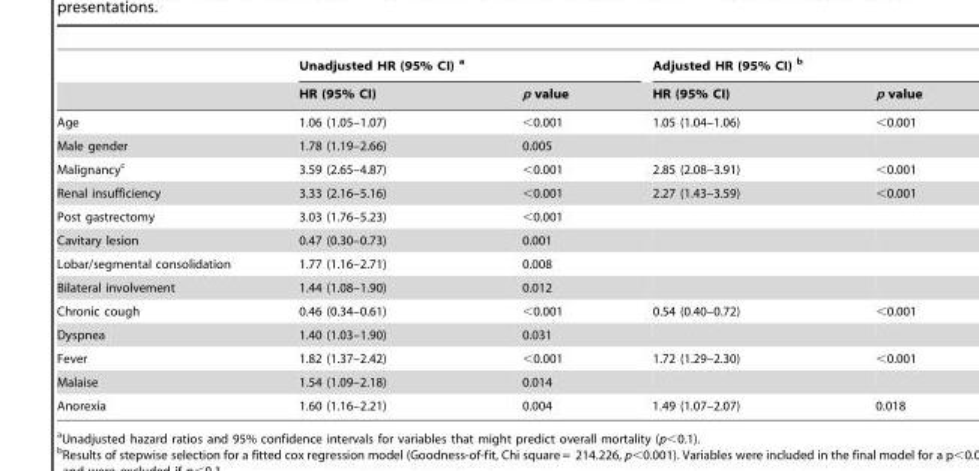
<table><thead><tr><td rowspan="2"></td><td colspan="2">Unadjusted HR (95% CI) a</td><td colspan="2">Adjusted HR (95% CI) b</td></tr><tr><td>HR (95% CI)</td><td>p value</td><td>HR (95% CI)</td><td>p value</td></tr></thead><tbody><tr><td>Age</td><td>1.06 (1.05–1.07)</td><td>&lt;0.001</td><td>1.05 (1.04–1.06)</td><td>&lt;0.001</td></tr><tr><td>Male gender</td><td>1.78 (1.19–2.66)</td><td>0.005</td><td></td><td></td></tr><tr><td>Malignancy<sup>c</sup></td><td>3.59 (2.65–4.87)</td><td>&lt;0.001</td><td>2.85 (2.08–3.91)</td><td>&lt;0.001</td></tr><tr><td>Renal insufficiency</td><td>3.33 (2.16–5.16)</td><td>&lt;0.001</td><td>2.27 (1.43–3.59)</td><td>&lt;0.001</td></tr><tr><td>Post gastrectomy</td><td>3.03 (1.76–5.23)</td><td>&lt;0.001</td><td></td><td></td></tr><tr><td>Cavitary lesion</td><td>0.47 (0.30–0.73)</td><td>0.001</td><td></td><td></td></tr><tr><td>Lobar/segmental consolidation</td><td>1.77 (1.16–2.71)</td><td>0.008</td><td></td><td></td></tr><tr><td>Bilateral involvement</td><td>1.44 (1.08–1.90)</td><td>0.012</td><td></td><td></td></tr><tr><td>Chronic cough</td><td>0.46 (0.34–0.61)</td><td>&lt;0.001</td><td>0.54 (0.40–0.72)</td><td>&lt;0.001</td></tr><tr><td>Dyspnea</td><td>1.40 (1.03–1.90)</td><td>0.031</td><td></td><td></td></tr><tr><td>Fever</td><td>1.82 (1.37–2.42)</td><td>&lt;0.001</td><td>1.72 (1.29–2.30)</td><td>&lt;0.001</td></tr><tr><td>Malaise</td><td>1.54 (1.09–2.18)</td><td>0.014</td><td></td><td></td></tr><tr><td>Anorexia</td><td>1.60 (1.16–2.21)</td><td>0.004</td><td>1.49 (1.07–2.07)</td><td>0.018</td></tr></tbody></table>